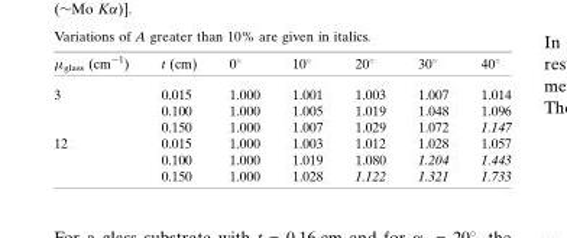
<table><thead><tr><td>�glass (cm�1)</td><td>t (cm)</td><td>0�</td><td>10�</td><td>20�</td><td>30�</td><td>40�</td></tr></thead><tbody><tr><td rowspan="3">3</td><td>0.015</td><td>1.000</td><td>1.001</td><td>1.003</td><td>1.007</td><td>1.014</td></tr><tr><td>0.100</td><td>1.000</td><td>1.005</td><td>1.019</td><td>1.048</td><td>1.096</td></tr><tr><td>0.150</td><td>1.000</td><td>1.007</td><td>1.029</td><td>1.072</td><td>1.147</td></tr><tr><td rowspan="3">12</td><td>0.015</td><td>1.000</td><td>1.003</td><td>1.012</td><td>1.028</td><td>1.057</td></tr><tr><td>0.100</td><td>1.000</td><td>1.019</td><td>1.080</td><td>1.204</td><td>1.443</td></tr><tr><td>0.150</td><td>1.000</td><td>1.028</td><td>1.122</td><td>1.321</td><td>1.733</td></tr></tbody></table>